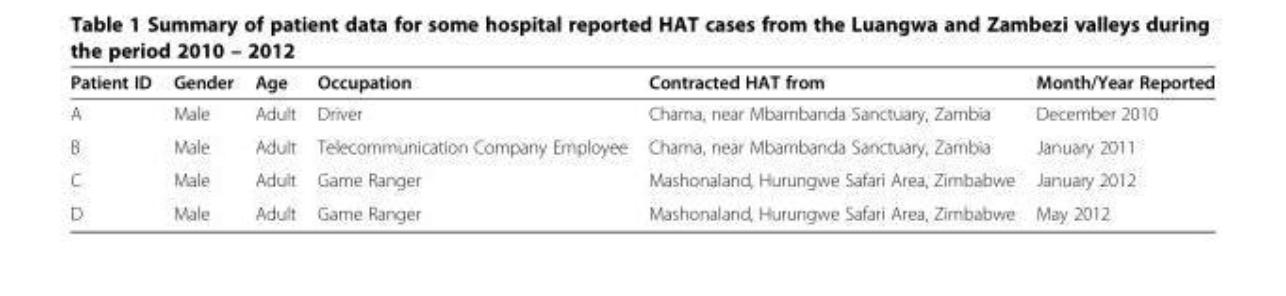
<table><thead><tr><td>Patient ID</td><td>Gender</td><td>Age</td><td>Occupation</td><td>Contracted HAT from</td><td>Month/Year Reported</td></tr></thead><tbody><tr><td>A</td><td>Male</td><td>Adult</td><td>Driver</td><td>Chama, near Mbambanda Sanctuary, Zambia</td><td>December 2010</td></tr><tr><td>B</td><td>Male</td><td>Adult</td><td>Telecommunication Company Employee</td><td>Chama, near Mbambanda Sanctuary, Zambia</td><td>January 2011</td></tr><tr><td>C</td><td>Male</td><td>Adult</td><td>Game Ranger</td><td>Mashonaland, Hurungwe Safari Area, Zimbabwe</td><td>January 2012</td></tr><tr><td>D</td><td>Male</td><td>Adult</td><td>Game Ranger</td><td>Mashonaland, Hurungwe Safari Area, Zimbabwe</td><td>May 2012</td></tr></tbody></table>